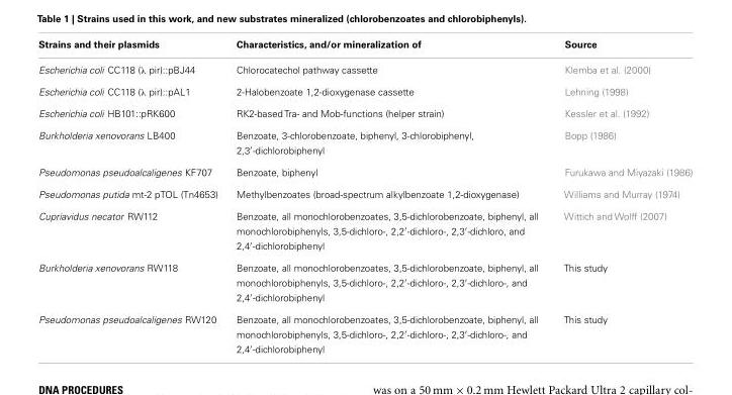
<table><thead><tr><td>Strains and their plasmids</td><td>Characteristics, and/or mineralization of</td><td>Source</td></tr></thead><tbody><tr><td>Escherichia coli CC118 (λ pir)::pBJ44</td><td>Chlorocatechol pathway cassette</td><td>Klemba et al. (2000)</td></tr><tr><td>Escherichia coli CC118 (λ pir)::pAL1</td><td>2-Halobenzoate 1,2-dioxygenase cassette</td><td>Lehning (1998)</td></tr><tr><td>Escherichia coli HB101::pRK600</td><td>RK2-based Tra- and Mob-functions (helper strain)</td><td>Kessler et al. (1992)</td></tr><tr><td>Burkholderia xenovorans LB400</td><td>Benzoate, 3-chlorobenzoate, biphenyl, 3-chlorobiphenyl, 2,3′-dichlorobiphenyl</td><td>Bopp (1986)</td></tr><tr><td>Pseudomonas pseudoalcaligenes KF707</td><td>Benzoate, biphenyl</td><td>Furukawa and Miyazaki (1986)</td></tr><tr><td>Pseudomonas putida mt-2 pTOL (Tn4653)</td><td>Methylbenzoates (broad-spectrum alkylbenzoate 1,2-dioxygenase)</td><td>Williams and Murray (1974)</td></tr><tr><td>Cupriavidus necator RW112</td><td>Benzoate, all monochlorobenzoates, 3,5-dichlorobenzoate, biphenyl, all monochlorobiphenyls, 3,5-dichloro-, 2,2′-dichloro-, 2,3′-dichloro, and 2,4′-dichlorobiphenyl</td><td>Wittich and Wolff (2007)</td></tr><tr><td>Burkholderia xenovorans RW118</td><td>Benzoate, all monochlorobenzoates, 3,5-dichlorobenzoate, biphenyl, all monochlorobiphenyls, 3,5-dichloro-, 2,2′-dichloro-, 2,3′-dichloro-, and 2,4′-dichlorobiphenyl</td><td>This study</td></tr><tr><td>Pseudomonas pseudoalcaligenes RW120</td><td>Benzoate, all monochlorobenzoates, 3,5-dichlorobenzoate, biphenyl, all monochlorobiphenyls, 3,5-dichloro-, 2,2′-dichloro-, 2,3′-dichloro-, and 2,4′-dichlorobiphenyl</td><td>This study</td></tr></tbody></table>